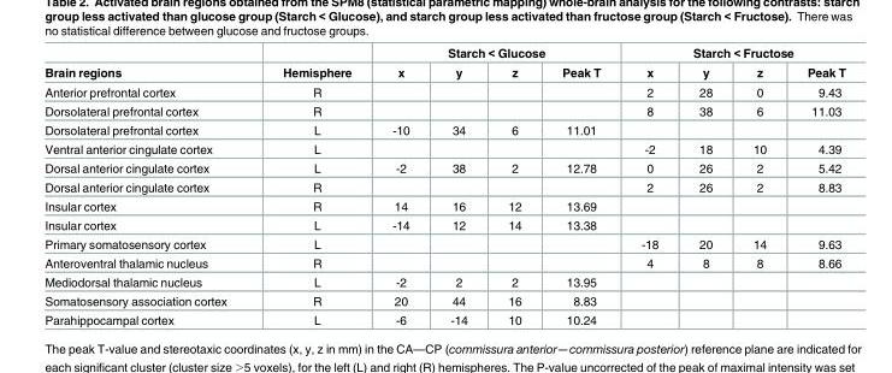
<table><thead><tr><td rowspan="2">Brain regions</td><td rowspan="2">Hemisphere</td><td colspan="4">Starch &lt; Glucose</td><td colspan="4">Starch &lt; Fructose</td></tr><tr><td>x</td><td>y</td><td>z</td><td>Peak T</td><td>x</td><td>y</td><td>z</td><td>Peak T</td></tr></thead><tbody><tr><td>Anterior prefrontal cortex</td><td>R</td><td></td><td></td><td></td><td></td><td>2</td><td>28</td><td>0</td><td>9.43</td></tr><tr><td>Dorsolateral prefrontal cortex</td><td>R</td><td></td><td></td><td></td><td></td><td>8</td><td>38</td><td>6</td><td>11.03</td></tr><tr><td>Dorsolateral prefrontal cortex</td><td>L</td><td>-10</td><td>34</td><td>6</td><td>11.01</td><td></td><td></td><td></td><td></td></tr><tr><td>Ventral anterior cingulate cortex</td><td>L</td><td></td><td></td><td></td><td></td><td>-2</td><td>18</td><td>10</td><td>4.39</td></tr><tr><td>Dorsal anterior cingulate cortex</td><td>L</td><td>-2</td><td>38</td><td>2</td><td>12.78</td><td>0</td><td>26</td><td>2</td><td>5.42</td></tr><tr><td>Dorsal anterior cingulate cortex</td><td>R</td><td></td><td></td><td></td><td></td><td>2</td><td>26</td><td>2</td><td>8.83</td></tr><tr><td>Insular cortex</td><td>R</td><td>14</td><td>16</td><td>12</td><td>13.69</td><td></td><td></td><td></td><td></td></tr><tr><td>Insular cortex</td><td>L</td><td>-14</td><td>12</td><td>14</td><td>13.38</td><td></td><td></td><td></td><td></td></tr><tr><td>Primary somatosensory cortex</td><td>L</td><td></td><td></td><td></td><td></td><td>-18</td><td>20</td><td>14</td><td>9.63</td></tr><tr><td>Anteroventral thalamic nucleus</td><td>R</td><td></td><td></td><td></td><td></td><td>4</td><td>8</td><td>8</td><td>8.66</td></tr><tr><td>Mediodorsal thalamic nucleus</td><td>L</td><td>-2</td><td>2</td><td>2</td><td>13.95</td><td></td><td></td><td></td><td></td></tr><tr><td>Somatosensory association cortex</td><td>R</td><td>20</td><td>44</td><td>16</td><td>8.83</td><td></td><td></td><td></td><td></td></tr><tr><td>Parahippocampal cortex</td><td>L</td><td>-6</td><td>-14</td><td>10</td><td>10.24</td><td></td><td></td><td></td><td></td></tr></tbody></table>